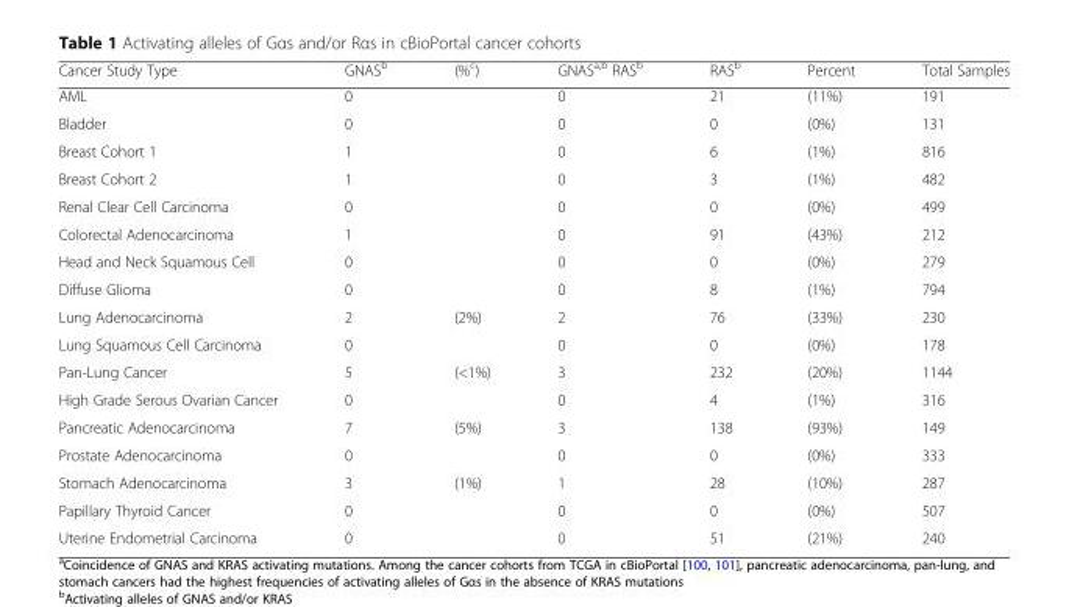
<table><thead><tr><td>Cancer Study Type</td><td>GNAS<sup>b</sup></td><td>(%<sup>c</sup>)</td><td>GNAS<sup>a,b</sup> RAS<sup>b</sup></td><td>RAS<sup>b</sup></td><td>Percent</td><td>Total Samples</td></tr></thead><tbody><tr><td>AML</td><td>0</td><td></td><td>0</td><td>21</td><td>(11%)</td><td>191</td></tr><tr><td>Bladder</td><td>0</td><td></td><td>0</td><td>0</td><td>(0%)</td><td>131</td></tr><tr><td>Breast Cohort 1</td><td>1</td><td></td><td>0</td><td>6</td><td>(1%)</td><td>816</td></tr><tr><td>Breast Cohort 2</td><td>1</td><td></td><td>0</td><td>3</td><td>(1%)</td><td>482</td></tr><tr><td>Renal Clear Cell Carcinoma</td><td>0</td><td></td><td>0</td><td>0</td><td>(0%)</td><td>499</td></tr><tr><td>Colorectal Adenocarcinoma</td><td>1</td><td></td><td>0</td><td>91</td><td>(43%)</td><td>212</td></tr><tr><td>Head and Neck Squamous Cell</td><td>0</td><td></td><td>0</td><td>0</td><td>(0%)</td><td>279</td></tr><tr><td>Diffuse Glioma</td><td>0</td><td></td><td>0</td><td>8</td><td>(1%)</td><td>794</td></tr><tr><td>Lung Adenocarcinoma</td><td>2</td><td>(2%)</td><td>2</td><td>76</td><td>(33%)</td><td>230</td></tr><tr><td>Lung Squamous Cell Carcinoma</td><td>0</td><td></td><td>0</td><td>0</td><td>(0%)</td><td>178</td></tr><tr><td>Pan-Lung Cancer</td><td>5</td><td>(&lt;1%)</td><td>3</td><td>232</td><td>(20%)</td><td>1144</td></tr><tr><td>High Grade Serous Ovarian Cancer</td><td>0</td><td></td><td>0</td><td>4</td><td>(1%)</td><td>316</td></tr><tr><td>Pancreatic Adenocarcinoma</td><td>7</td><td>(5%)</td><td>3</td><td>138</td><td>(93%)</td><td>149</td></tr><tr><td>Prostate Adenocarcinoma</td><td>0</td><td></td><td>0</td><td>0</td><td>(0%)</td><td>333</td></tr><tr><td>Stomach Adenocarcinoma</td><td>3</td><td>(1%)</td><td>1</td><td>28</td><td>(10%)</td><td>287</td></tr><tr><td>Papillary Thyroid Cancer</td><td>0</td><td></td><td>0</td><td>0</td><td>(0%)</td><td>507</td></tr><tr><td>Uterine Endometrial Carcinoma</td><td>0</td><td></td><td>0</td><td>51</td><td>(21%)</td><td>240</td></tr></tbody></table>